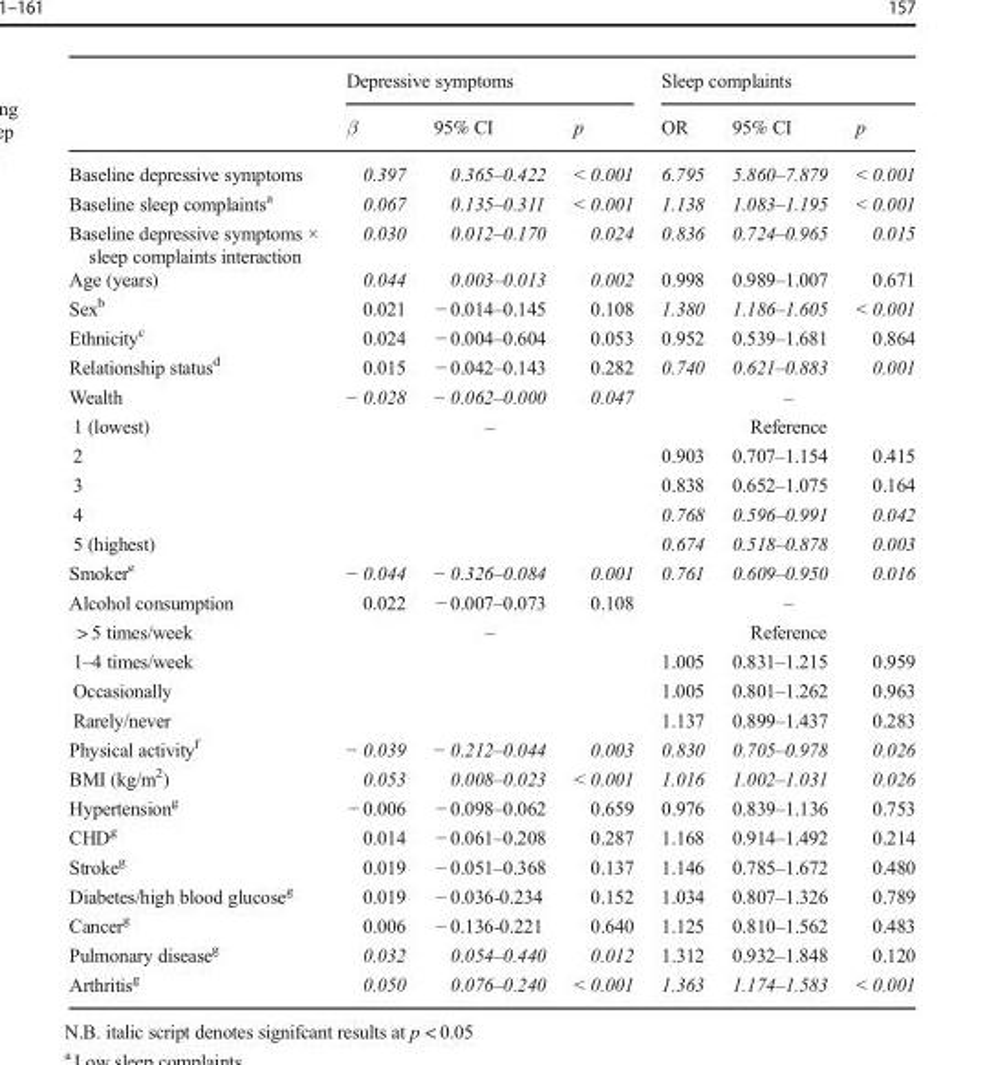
<table><thead><tr><td rowspan="2"></td><td colspan="3">Depressive symptoms</td><td colspan="3">Sleep complaints</td></tr><tr><td>β</td><td>95% CI</td><td>p</td><td>OR</td><td>95% CI</td><td>p</td></tr></thead><tbody><tr><td>Baseline depressive symptoms</td><td>0.397</td><td>0.365–0.422</td><td>&lt; 0.001</td><td>6.795</td><td>5.860–7.879</td><td>&lt; 0.001</td></tr><tr><td>Baseline sleep complaints<sup>a</sup></td><td>0.067</td><td>0.135–0.311</td><td>&lt; 0.001</td><td>1.138</td><td>1.083–1.195</td><td>&lt; 0.001</td></tr><tr><td>Baseline depressive symptoms × sleep complaints interaction</td><td>0.030</td><td>0.012–0.170</td><td>0.024</td><td>0.836</td><td>0.724–0.965</td><td>0.015</td></tr><tr><td>Age (years)</td><td>0.044</td><td>0.003–0.013</td><td>0.002</td><td>0.998</td><td>0.989–1.007</td><td>0.671</td></tr><tr><td>Sex<sup>b</sup></td><td>0.021</td><td>− 0.014–0.145</td><td>0.108</td><td>1.380</td><td>1.186–1.605</td><td>&lt; 0.001</td></tr><tr><td>Ethnicity<sup>c</sup></td><td>0.024</td><td>− 0.004–0.604</td><td>0.053</td><td>0.952</td><td>0.539–1.681</td><td>0.864</td></tr><tr><td>Relationship status<sup>d</sup></td><td>0.015</td><td>− 0.042–0.143</td><td>0.282</td><td>0.740</td><td>0.621–0.883</td><td>0.001</td></tr><tr><td>Wealth</td><td>− 0.028</td><td>− 0.062–0.000</td><td>0.047</td><td colspan="3">–</td></tr><tr><td>1 (lowest)</td><td rowspan="5" colspan="3">–</td><td colspan="3">Reference</td></tr><tr><td>2</td><td>0.903</td><td>0.707–1.154</td><td>0.415</td></tr><tr><td>3</td><td>0.838</td><td>0.652–1.075</td><td>0.164</td></tr><tr><td>4</td><td>0.768</td><td>0.596–0.991</td><td>0.042</td></tr><tr><td>5 (highest)</td><td>0.674</td><td>0.518–0.878</td><td>0.003</td></tr><tr><td>Smoker<sup>e</sup></td><td>− 0.044</td><td>− 0.326–0.084</td><td>0.001</td><td>0.761</td><td>0.609–0.950</td><td>0.016</td></tr><tr><td>Alcohol consumption</td><td>0.022</td><td>− 0.007–0.073</td><td>0.108</td><td colspan="3">–</td></tr><tr><td>&gt; 5 times/week</td><td rowspan="4" colspan="3">–</td><td colspan="3">Reference</td></tr><tr><td>1–4 times/week</td><td>1.005</td><td>0.831–1.215</td><td>0.959</td></tr><tr><td>Occasionally</td><td>1.005</td><td>0.801–1.262</td><td>0.963</td></tr><tr><td>Rarely/never</td><td>1.137</td><td>0.899–1.437</td><td>0.283</td></tr><tr><td>Physical activity<sup>f</sup></td><td>− 0.039</td><td>− 0.212–0.044</td><td>0.003</td><td>0.830</td><td>0.705–0.978</td><td>0.026</td></tr><tr><td>BMI (kg/m<sup>2</sup>)</td><td>0.053</td><td>0.008–0.023</td><td>&lt; 0.001</td><td>1.016</td><td>1.002–1.031</td><td>0.026</td></tr><tr><td>Hypertension<sup>g</sup></td><td>− 0.006</td><td>− 0.098–0.062</td><td>0.659</td><td>0.976</td><td>0.839–1.136</td><td>0.753</td></tr><tr><td>CHD<sup>g</sup></td><td>0.014</td><td>− 0.061–0.208</td><td>0.287</td><td>1.168</td><td>0.914–1.492</td><td>0.214</td></tr><tr><td>Stroke<sup>g</sup></td><td>0.019</td><td>− 0.051–0.368</td><td>0.137</td><td>1.146</td><td>0.785–1.672</td><td>0.480</td></tr><tr><td>Diabetes/high blood glucose<sup>g</sup></td><td>0.019</td><td>− 0.036-0.234</td><td>0.152</td><td>1.034</td><td>0.807–1.326</td><td>0.789</td></tr><tr><td>Cancer<sup>g</sup></td><td>0.006</td><td>− 0.136-0.221</td><td>0.640</td><td>1.125</td><td>0.810–1.562</td><td>0.483</td></tr><tr><td>Pulmonary disease<sup>g</sup></td><td>0.032</td><td>0.054–0.440</td><td>0.012</td><td>1.312</td><td>0.932–1.848</td><td>0.120</td></tr><tr><td>Arthritis<sup>g</sup></td><td>0.050</td><td>0.076–0.240</td><td>&lt; 0.001</td><td>1.363</td><td>1.174–1.583</td><td>&lt; 0.001</td></tr></tbody></table>